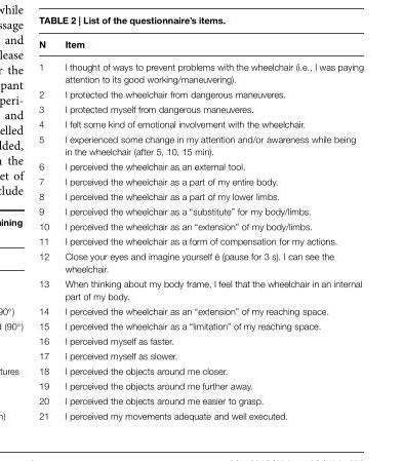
<table><thead><tr><td>N</td><td>Item</td></tr></thead><tbody><tr><td>1</td><td>I thought of ways to prevent problems with the wheelchair (i.e., I was paying attention to its good working/maneuvering).</td></tr><tr><td>2</td><td>I protected the wheelchair from dangerous maneuveres.</td></tr><tr><td>3</td><td>I protected myself from dangerous maneuveres.</td></tr><tr><td>4</td><td>I felt some kind of emotional involvement with the wheelchair.</td></tr><tr><td>5</td><td>I experienced some change in my attention and/or awareness while being in the wheelchair (after 5, 10, 15 min).</td></tr><tr><td>6</td><td>I perceived the wheelchair as an external tool.</td></tr><tr><td>7</td><td>I perceived the wheelchair as a part of my entire body.</td></tr><tr><td>8</td><td>I perceived the wheelchair as a part of my lower limbs.</td></tr><tr><td>9</td><td>I perceived the wheelchair as a “substitute” for my body/limbs.</td></tr><tr><td>10</td><td>I perceived the wheelchair as an “extension” of my body/limbs.</td></tr><tr><td>11</td><td>I perceived the wheelchair as a form of compensation for my actions.</td></tr><tr><td>12</td><td>Close your eyes and imagine yourself é (pause for 3 s). I can see the wheelchair.</td></tr><tr><td>13</td><td>When thinking about my body frame, I feel that the wheelchair in an internal part of my body.</td></tr><tr><td>14</td><td>I perceived the wheelchair as an “extension” of my reaching space.</td></tr><tr><td>15</td><td>I perceived the wheelchair as a “limitation” of my reaching space.</td></tr><tr><td>16</td><td>I perceived myself as faster.</td></tr><tr><td>17</td><td>I perceived myself as slower.</td></tr><tr><td>18</td><td>I perceived the objects around me closer.</td></tr><tr><td>19</td><td>I perceived the objects around me further away.</td></tr><tr><td>20</td><td>I perceived the objects around me easier to grasp.</td></tr><tr><td>21</td><td>I perceived my movements adequate and well executed.</td></tr></tbody></table>